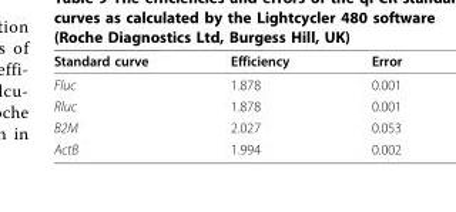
<table><thead><tr><td>Standard curve</td><td>Efficiency</td><td>Error</td></tr></thead><tbody><tr><td>Fluc</td><td>1.878</td><td>0.001</td></tr><tr><td>Rluc</td><td>1.878</td><td>0.001</td></tr><tr><td>B2M</td><td>2.027</td><td>0.053</td></tr><tr><td>ActB</td><td>1.994</td><td>0.002</td></tr></tbody></table>